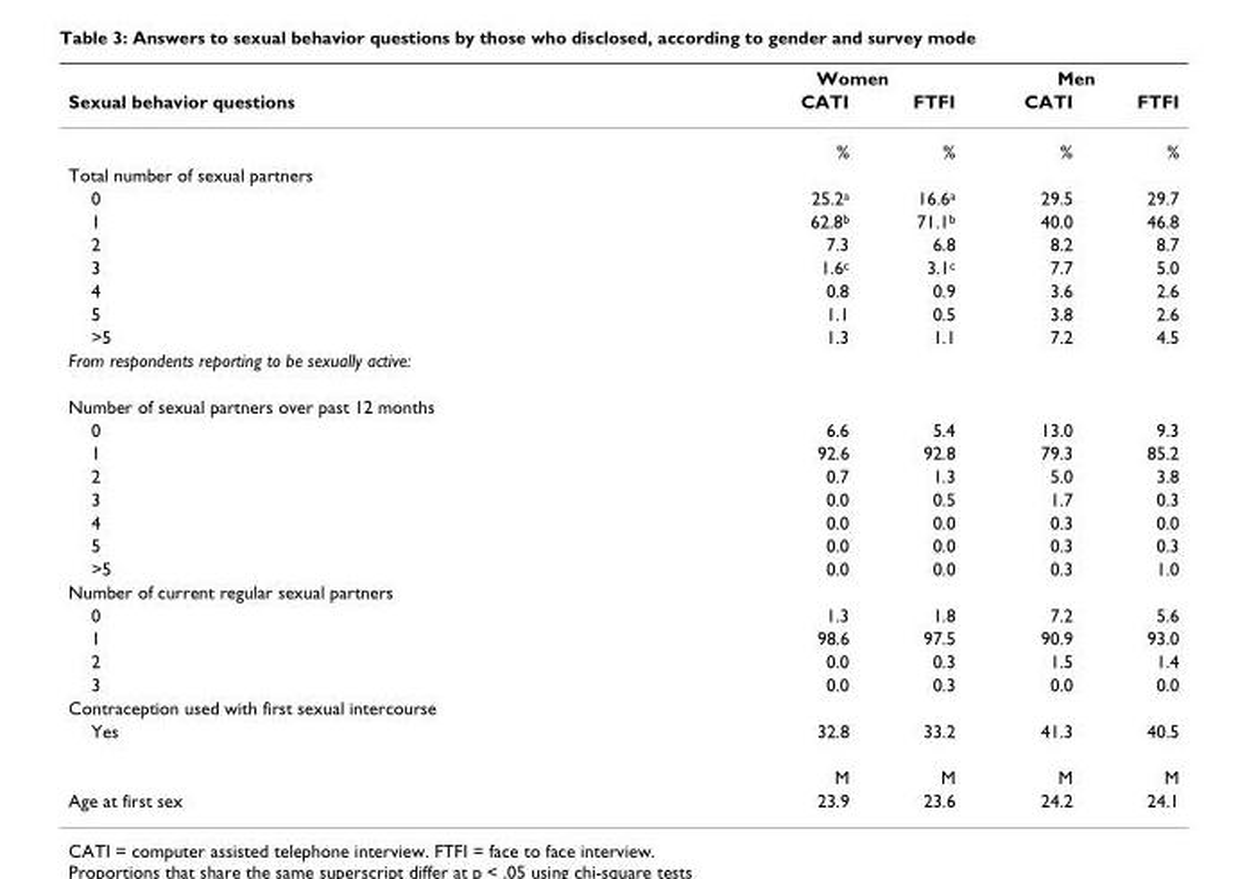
<table><thead><tr><td rowspan="2">Sexual behavior questions</td><td colspan="2">Women</td><td colspan="2">Men</td></tr><tr><td>CATI</td><td>FTFI</td><td>CATI</td><td>FTFI</td></tr></thead><tbody><tr><td></td><td>%</td><td>%</td><td>%</td><td>%</td></tr><tr><td colspan="5">Total number of sexual partners</td></tr><tr><td>0</td><td>25.2<sup>a</sup></td><td>16.6<sup>a</sup></td><td>29.5</td><td>29.7</td></tr><tr><td>1</td><td>62.8<sup>b</sup></td><td>71.1<sup>b</sup></td><td>40.0</td><td>46.8</td></tr><tr><td>2</td><td>7.3</td><td>6.8</td><td>8.2</td><td>8.7</td></tr><tr><td>3</td><td>1.6<sup>c</sup></td><td>3.1<sup>c</sup></td><td>7.7</td><td>5.0</td></tr><tr><td>4</td><td>0.8</td><td>0.9</td><td>3.6</td><td>2.6</td></tr><tr><td>5</td><td>1.1</td><td>0.5</td><td>3.8</td><td>2.6</td></tr><tr><td>&gt;5</td><td>1.3</td><td>1.1</td><td>7.2</td><td>4.5</td></tr><tr><td colspan="5">From respondents reporting to be sexually active:</td></tr><tr><td colspan="5">Number of sexual partners over past 12 months</td></tr><tr><td>0</td><td>6.6</td><td>5.4</td><td>13.0</td><td>9.3</td></tr><tr><td>1</td><td>92.6</td><td>92.8</td><td>79.3</td><td>85.2</td></tr><tr><td>2</td><td>0.7</td><td>1.3</td><td>5.0</td><td>3.8</td></tr><tr><td>3</td><td>0.0</td><td>0.5</td><td>1.7</td><td>0.3</td></tr><tr><td>4</td><td>0.0</td><td>0.0</td><td>0.3</td><td>0.0</td></tr><tr><td>5</td><td>0.0</td><td>0.0</td><td>0.3</td><td>0.3</td></tr><tr><td>&gt;5</td><td>0.0</td><td>0.0</td><td>0.3</td><td>1.0</td></tr><tr><td colspan="5">Number of current regular sexual partners</td></tr><tr><td>0</td><td>1.3</td><td>1.8</td><td>7.2</td><td>5.6</td></tr><tr><td>1</td><td>98.6</td><td>97.5</td><td>90.9</td><td>93.0</td></tr><tr><td>2</td><td>0.0</td><td>0.3</td><td>1.5</td><td>1.4</td></tr><tr><td>3</td><td>0.0</td><td>0.3</td><td>0.0</td><td>0.0</td></tr><tr><td colspan="5">Contraception used with first sexual intercourse</td></tr><tr><td rowspan="2">Yes</td><td>32.8</td><td>33.2</td><td>41.3</td><td>40.5</td></tr><tr><td>M</td><td>M</td><td>M</td><td>M</td></tr><tr><td>Age at first sex</td><td>23.9</td><td>23.6</td><td>24.2</td><td>24.1</td></tr></tbody></table>